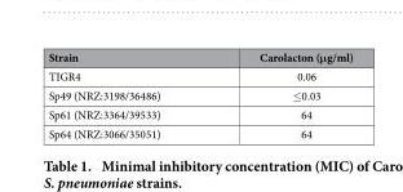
<table><thead><tr><td>Strain</td><td>Carolacton (μg/ml)</td></tr></thead><tbody><tr><td>TIGR4</td><td>0.06</td></tr><tr><td>Sp49 (NRZ:3198/36486)</td><td>≤ 0.03</td></tr><tr><td>Sp61 (NRZ:3364/39533)</td><td>64</td></tr><tr><td>Sp64 (NRZ:3066/35051)</td><td>64</td></tr></tbody></table>